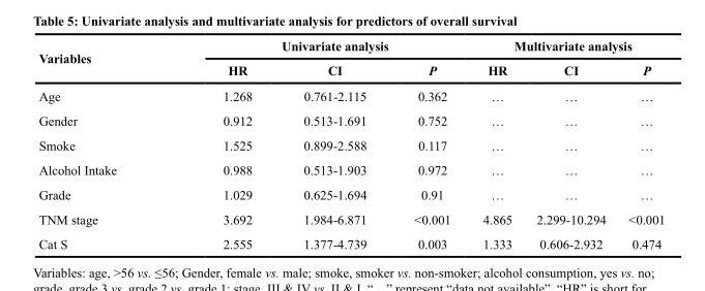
<table><thead><tr><td rowspan="2">Variables</td><td colspan="3">Univariate analysis</td><td colspan="3">Multivariate analysis</td></tr><tr><td>HR</td><td>CI</td><td>P</td><td>HR</td><td>CI</td><td>P</td></tr></thead><tbody><tr><td>Age</td><td>1.268</td><td>0.761-2.115</td><td>0.362</td><td>…</td><td>…</td><td>…</td></tr><tr><td>Gender</td><td>0.912</td><td>0.513-1.691</td><td>0.752</td><td>…</td><td>…</td><td>…</td></tr><tr><td>Smoke</td><td>1.525</td><td>0.899-2.588</td><td>0.117</td><td>…</td><td>…</td><td>…</td></tr><tr><td>Alcohol Intake</td><td>0.988</td><td>0.513-1.903</td><td>0.972</td><td>…</td><td>…</td><td>…</td></tr><tr><td>Grade</td><td>1.029</td><td>0.625-1.694</td><td>0.91</td><td>…</td><td>…</td><td>…</td></tr><tr><td>TNM stage</td><td>3.692</td><td>1.984-6.871</td><td>&lt;0.001</td><td>4.865</td><td>2.299-10.294</td><td>&lt;0.001</td></tr><tr><td>Cat S</td><td>2.555</td><td>1.377-4.739</td><td>0.003</td><td>1.333</td><td>0.606-2.932</td><td>0.474</td></tr></tbody></table>